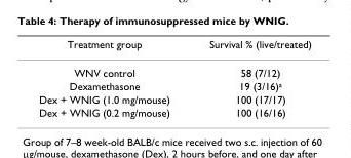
<table><thead><tr><td>Treatment group</td><td>Survival % (live/treated)</td></tr></thead><tbody><tr><td>WNV control</td><td>58 (7/12)</td></tr><tr><td>Dexamethasone</td><td>19 (3/16)<sup>a</sup></td></tr><tr><td>Dex + WNIG (1.0 mg/mouse)</td><td>100 (17/17)</td></tr><tr><td>Dex + WNIG (0.2 mg/mouse)</td><td>100 (16/16)</td></tr></tbody></table>